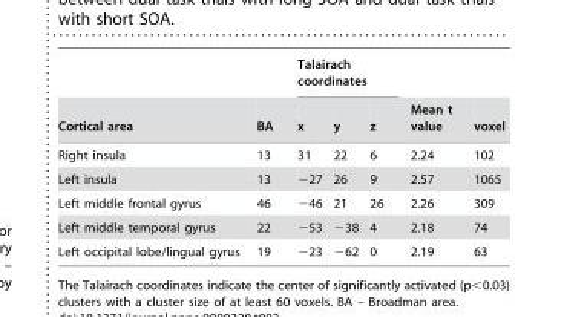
<table><thead><tr><td rowspan="2">Cortical area</td><td rowspan="2">BA</td><td colspan="3">Talairach coordinates</td><td rowspan="2">Mean t value</td><td rowspan="2">voxel</td></tr><tr><td>x</td><td>y</td><td>z</td></tr></thead><tbody><tr><td>Right insula</td><td>13</td><td>31</td><td>22</td><td>6</td><td>2.24</td><td>102</td></tr><tr><td>Left insula</td><td>13</td><td>−27</td><td>26</td><td>9</td><td>2.57</td><td>1065</td></tr><tr><td>Left middle frontal gyrus</td><td>46</td><td>−46</td><td>21</td><td>26</td><td>2.26</td><td>309</td></tr><tr><td>Left middle temporal gyrus</td><td>22</td><td>−53</td><td>−38</td><td>4</td><td>2.18</td><td>74</td></tr><tr><td>Left occipital lobe/lingual gyrus</td><td>19</td><td>−23</td><td>−62</td><td>0</td><td>2.19</td><td>63</td></tr></tbody></table>